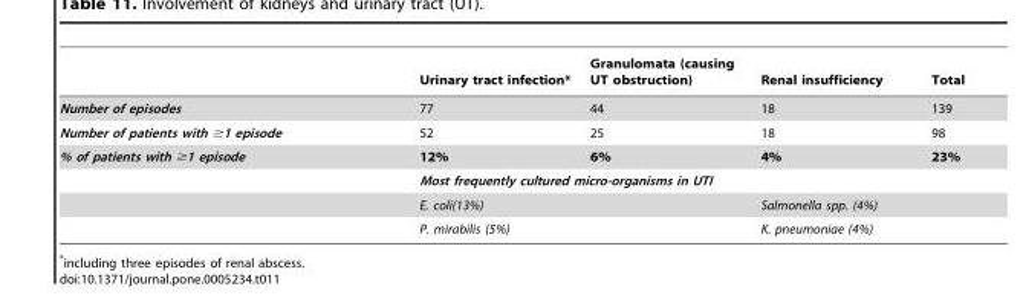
<table><thead><tr><td></td><td>Urinary tract infection*</td><td>Granulomata (causing UT obstruction)</td><td>Renal insufficiency</td><td>Total</td></tr></thead><tbody><tr><td>Number of episodes</td><td>77</td><td>44</td><td>18</td><td>139</td></tr><tr><td>Number of patients with ≥1 episode</td><td>52</td><td>25</td><td>18</td><td>98</td></tr><tr><td rowspan="4">% of patients with ≥1 episode</td><td>12%</td><td>6%</td><td>4%</td><td>23%</td></tr><tr><td colspan="4">Most frequently cultured micro-organisms in UTI</td></tr><tr><td colspan="2">E. coli(13%)</td><td colspan="2">Salmonella spp. (4%)</td></tr><tr><td colspan="2">P. mirabilis (5%)</td><td colspan="2">K. pneumoniae (4%)</td></tr></tbody></table>